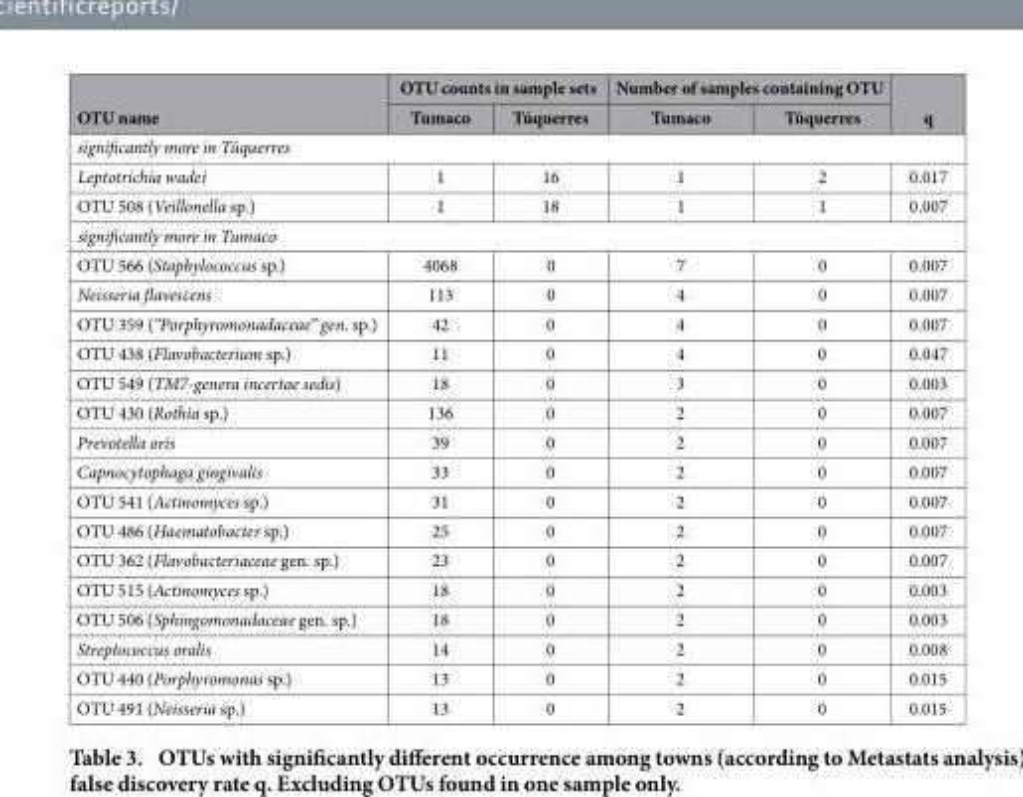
<table><thead><tr><td rowspan="2">OTU name</td><td colspan="2">OTU counts in sample sets</td><td colspan="2">Number of samples containing OTU</td><td rowspan="2">q</td></tr><tr><td>Tumaco</td><td>Túquerres</td><td>Tumaco</td><td>Túquerres</td></tr></thead><tbody><tr><td colspan="6">significantly more in Túquerres</td></tr><tr><td>Leptotrichia wadei</td><td>1</td><td>16</td><td>1</td><td>2</td><td>0.017</td></tr><tr><td>OTU 508 (Veillonella sp.)</td><td>1</td><td>18</td><td>1</td><td>1</td><td>0.007</td></tr><tr><td colspan="6">significantly more in Tumaco</td></tr><tr><td>OTU 566 (Staphylococcus sp.)</td><td>4068</td><td>0</td><td>7</td><td>0</td><td>0.007</td></tr><tr><td>Neisseria flavescens</td><td>113</td><td>0</td><td>4</td><td>0</td><td>0.007</td></tr><tr><td>OTU 359 (“Porphyromonadaceae” gen. sp.)</td><td>42</td><td>0</td><td>4</td><td>0</td><td>0.007</td></tr><tr><td>OTU 438 (Flavobacterium sp.)</td><td>11</td><td>0</td><td>4</td><td>0</td><td>0.047</td></tr><tr><td>OTU 549 (TM7-genera incertae sedis)</td><td>18</td><td>0</td><td>3</td><td>0</td><td>0.003</td></tr><tr><td>OTU 430 (Rothia sp.)</td><td>136</td><td>0</td><td>2</td><td>0</td><td>0.007</td></tr><tr><td>Prevotella oris</td><td>39</td><td>0</td><td>2</td><td>0</td><td>0.007</td></tr><tr><td>Capnocytophaga gingivalis</td><td>33</td><td>0</td><td>2</td><td>0</td><td>0.007</td></tr><tr><td>OTU 541 (Actinomyces sp.)</td><td>31</td><td>0</td><td>2</td><td>0</td><td>0.007</td></tr><tr><td>OTU 486 (Haematobacter sp.)</td><td>25</td><td>0</td><td>2</td><td>0</td><td>0.007</td></tr><tr><td>OTU 362 (Flavobacteriaceae gen. sp.)</td><td>23</td><td>0</td><td>2</td><td>0</td><td>0.007</td></tr><tr><td>OTU 515 (Actinomyces sp.)</td><td>18</td><td>0</td><td>2</td><td>0</td><td>0.003</td></tr><tr><td>OTU 506 (Sphingomonadaceae gen. sp.)</td><td>18</td><td>0</td><td>2</td><td>0</td><td>0.003</td></tr><tr><td>Streptococcus oralis</td><td>14</td><td>0</td><td>2</td><td>0</td><td>0.008</td></tr><tr><td>OTU 440 (Porphyromonas sp.)</td><td>13</td><td>0</td><td>2</td><td>0</td><td>0.015</td></tr><tr><td>OTU 491 (Neisseria sp.)</td><td>13</td><td>0</td><td>2</td><td>0</td><td>0.015</td></tr></tbody></table>